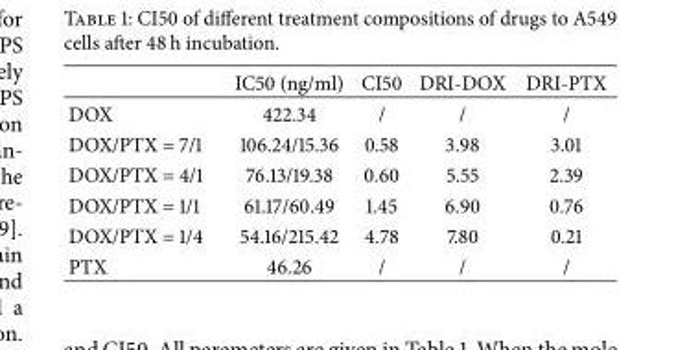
<table><thead><tr><td></td><td>IC50 (ng/ml)</td><td>CI50</td><td>DRI-DOX</td><td>DRI-PTX</td></tr></thead><tbody><tr><td>DOX</td><td>422.34</td><td>/</td><td>/</td><td>/</td></tr><tr><td>DOX/PTX = 7/1</td><td>106.24/15.36</td><td>0.58</td><td>3.98</td><td>3.01</td></tr><tr><td>DOX/PTX = 4/1</td><td>76.13/19.38</td><td>0.60</td><td>5.55</td><td>2.39</td></tr><tr><td>DOX/PTX = 1/1</td><td>61.17/60.49</td><td>1.45</td><td>6.90</td><td>0.76</td></tr><tr><td>DOX/PTX = 1/4</td><td>54.16/215.42</td><td>4.78</td><td>7.80</td><td>0.21</td></tr><tr><td>PTX</td><td>46.26</td><td>/</td><td>/</td><td>/</td></tr></tbody></table>